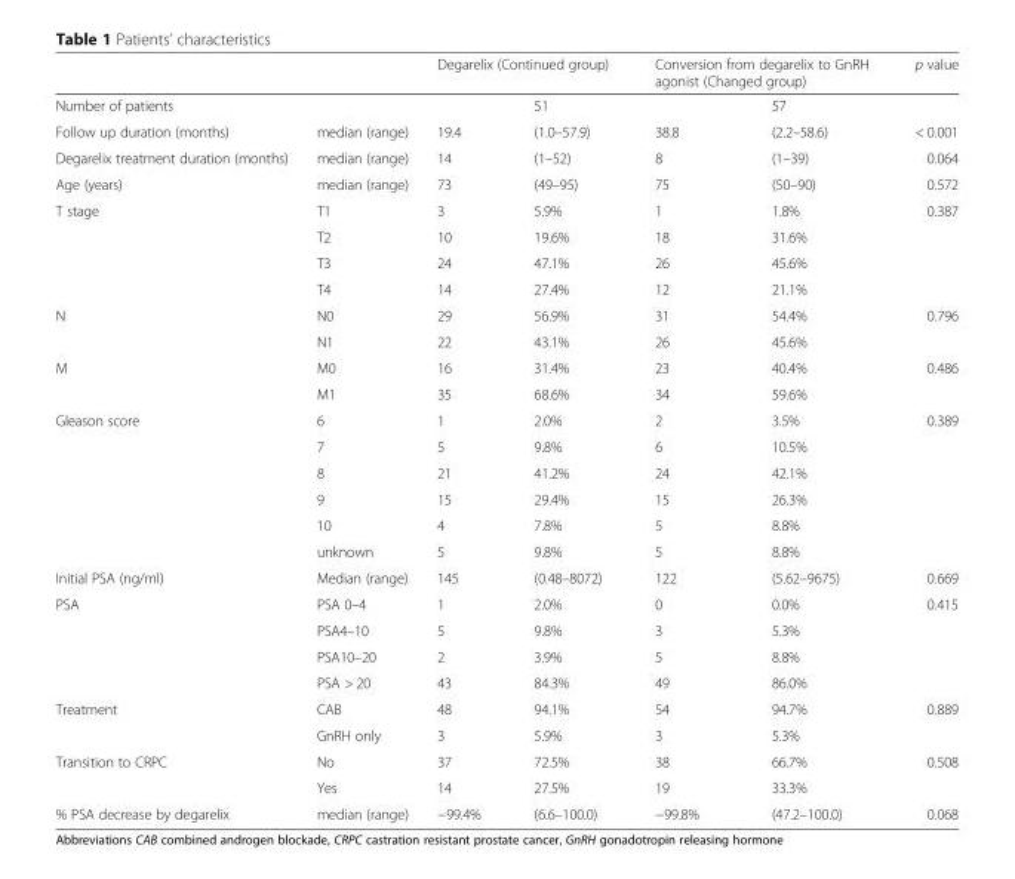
<table><thead><tr><td rowspan="2">Number of patients</td><td rowspan="2"></td><td colspan="2">Degarelix (Continued group)</td><td colspan="2">Conversion from degarelix to GnRH agonist (Changed group)</td><td rowspan="2">p value</td></tr><tr><td></td><td>51</td><td></td><td>57</td></tr></thead><tbody><tr><td>Follow up duration (months)</td><td>median (range)</td><td>19.4</td><td>(1.0–57.9)</td><td>38.8</td><td>(2.2–58.6)</td><td>&lt; 0.001</td></tr><tr><td>Degarelix treatment duration (months)</td><td>median (range)</td><td>14</td><td>(1–52)</td><td>8</td><td>(1–39)</td><td>0.064</td></tr><tr><td>Age (years)</td><td>median (range)</td><td>73</td><td>(49–95)</td><td>75</td><td>(50–90)</td><td>0.572</td></tr><tr><td rowspan="4">T stage</td><td>T1</td><td>3</td><td>5.9%</td><td>1</td><td>1.8%</td><td rowspan="4">0.387</td></tr><tr><td>T2</td><td>10</td><td>19.6%</td><td>18</td><td>31.6%</td></tr><tr><td>T3</td><td>24</td><td>47.1%</td><td>26</td><td>45.6%</td></tr><tr><td>T4</td><td>14</td><td>27.4%</td><td>12</td><td>21.1%</td></tr><tr><td rowspan="2">N</td><td>N0</td><td>29</td><td>56.9%</td><td>31</td><td>54.4%</td><td rowspan="2">0.796</td></tr><tr><td>N1</td><td>22</td><td>43.1%</td><td>26</td><td>45.6%</td></tr><tr><td rowspan="2">M</td><td>M0</td><td>16</td><td>31.4%</td><td>23</td><td>40.4%</td><td rowspan="2">0.486</td></tr><tr><td>M1</td><td>35</td><td>68.6%</td><td>34</td><td>59.6%</td></tr><tr><td rowspan="6">Gleason score</td><td>6</td><td>1</td><td>2.0%</td><td>2</td><td>3.5%</td><td rowspan="5">0.389</td></tr><tr><td>7</td><td>5</td><td>9.8%</td><td>6</td><td>10.5%</td></tr><tr><td>8</td><td>21</td><td>41.2%</td><td>24</td><td>42.1%</td></tr><tr><td>9</td><td>15</td><td>29.4%</td><td>15</td><td>26.3%</td></tr><tr><td>10</td><td>4</td><td>7.8%</td><td>5</td><td>8.8%</td></tr><tr><td>unknown</td><td>5</td><td>9.8%</td><td>5</td><td>8.8%</td><td></td></tr><tr><td>Initial PSA (ng/ml)</td><td>Median (range)</td><td>145</td><td>(0.48–8072)</td><td>122</td><td>(5.62–9675)</td><td>0.669</td></tr><tr><td rowspan="4">PSA</td><td>PSA 0–4</td><td>1</td><td>2.0%</td><td>0</td><td>0.0%</td><td rowspan="4">0.415</td></tr><tr><td>PSA4–10</td><td>5</td><td>9.8%</td><td>3</td><td>5.3%</td></tr><tr><td>PSA10–20</td><td>2</td><td>3.9%</td><td>5</td><td>8.8%</td></tr><tr><td>PSA &gt; 20</td><td>43</td><td>84.3%</td><td>49</td><td>86.0%</td></tr><tr><td rowspan="2">Treatment</td><td>CAB</td><td>48</td><td>94.1%</td><td>54</td><td>94.7%</td><td rowspan="2">0.889</td></tr><tr><td>GnRH only</td><td>3</td><td>5.9%</td><td>3</td><td>5.3%</td></tr><tr><td rowspan="2">Transition to CRPC</td><td>No</td><td>37</td><td>72.5%</td><td>38</td><td>66.7%</td><td rowspan="2">0.508</td></tr><tr><td>Yes</td><td>14</td><td>27.5%</td><td>19</td><td>33.3%</td></tr><tr><td>% PSA decrease by degarelix</td><td>median (range)</td><td>−99.4%</td><td>(6.6–100.0)</td><td>−99.8%</td><td>(47.2–100.0)</td><td>0.068</td></tr></tbody></table>